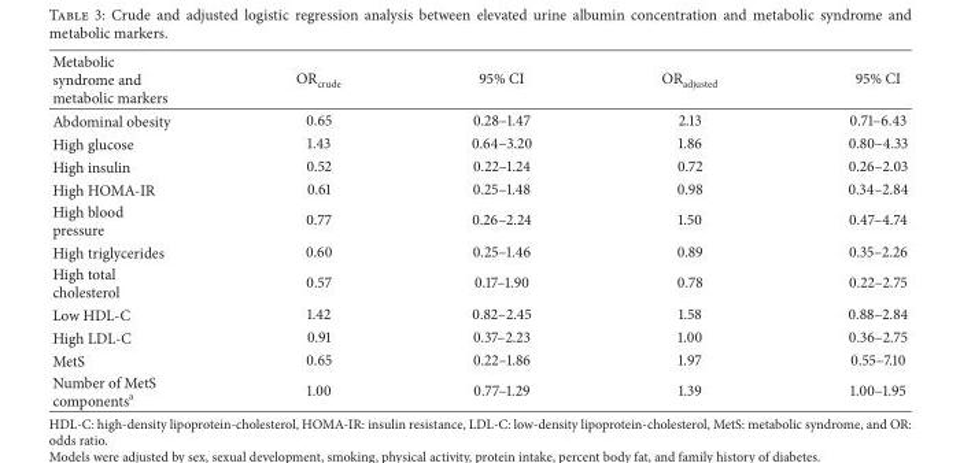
<table><thead><tr><td>Metabolic syndrome and metabolic markers</td><td>OR<sub>crude</sub></td><td>95% CI</td><td>OR<sub>adjusted</sub></td><td>95% CI</td></tr></thead><tbody><tr><td>Abdominal obesity</td><td>0.65</td><td>0.28–1.47</td><td>2.13</td><td>0.71–6.43</td></tr><tr><td>High glucose</td><td>1.43</td><td>0.64–3.20</td><td>1.86</td><td>0.80–4.33</td></tr><tr><td>High insulin</td><td>0.52</td><td>0.22–1.24</td><td>0.72</td><td>0.26–2.03</td></tr><tr><td>High HOMA-IR</td><td>0.61</td><td>0.25–1.48</td><td>0.98</td><td>0.34–2.84</td></tr><tr><td>High blood pressure</td><td>0.77</td><td>0.26–2.24</td><td>1.50</td><td>0.47–4.74</td></tr><tr><td>High triglycerides</td><td>0.60</td><td>0.25–1.46</td><td>0.89</td><td>0.35–2.26</td></tr><tr><td>High total cholesterol</td><td>0.57</td><td>0.17–1.90</td><td>0.78</td><td>0.22–2.75</td></tr><tr><td>Low HDL-C</td><td>1.42</td><td>0.82–2.45</td><td>1.58</td><td>0.88–2.84</td></tr><tr><td>High LDL-C</td><td>0.91</td><td>0.37–2.23</td><td>1.00</td><td>0.36–2.75</td></tr><tr><td>MetS</td><td>0.65</td><td>0.22–1.86</td><td>1.97</td><td>0.55–7.10</td></tr><tr><td>Number of MetS components<sup>a</sup></td><td>1.00</td><td>0.77–1.29</td><td>1.39</td><td>1.00–1.95</td></tr></tbody></table>